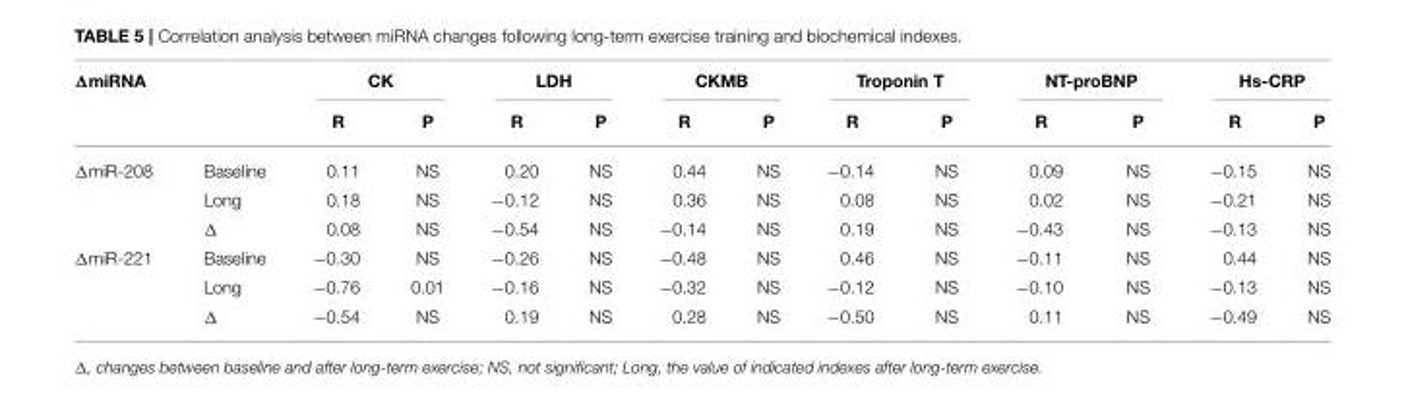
<table><thead><tr><td rowspan="2">ΔmiRNA</td><td rowspan="2"></td><td colspan="2">CK</td><td colspan="2">LDH</td><td colspan="2">CKMB</td><td colspan="2">Troponin T</td><td colspan="2">NT-proBNP</td><td colspan="2">Hs-CRP</td></tr><tr><td>R</td><td>P</td><td>R</td><td>P</td><td>R</td><td>P</td><td>R</td><td>P</td><td>R</td><td>P</td><td>R</td><td>P</td></tr></thead><tbody><tr><td rowspan="3">ΔmiR-208</td><td>Baseline</td><td>0.11</td><td>NS</td><td>0.20</td><td>NS</td><td>0.44</td><td>NS</td><td>−0.14</td><td>NS</td><td>0.09</td><td>NS</td><td>−0.15</td><td>NS</td></tr><tr><td>Long</td><td>0.18</td><td>NS</td><td>−0.12</td><td>NS</td><td>0.36</td><td>NS</td><td>0.08</td><td>NS</td><td>0.02</td><td>NS</td><td>−0.21</td><td>NS</td></tr><tr><td>Δ</td><td>0.08</td><td>NS</td><td>−0.54</td><td>NS</td><td>−0.14</td><td>NS</td><td>0.19</td><td>NS</td><td>−0.43</td><td>NS</td><td>−0.13</td><td>NS</td></tr><tr><td rowspan="3">ΔmiR-221</td><td>Baseline</td><td>−0.30</td><td>NS</td><td>−0.26</td><td>NS</td><td>−0.48</td><td>NS</td><td>0.46</td><td>NS</td><td>−0.11</td><td>NS</td><td>0.44</td><td>NS</td></tr><tr><td>Long</td><td>−0.76</td><td>0.01</td><td>−0.16</td><td>NS</td><td>−0.32</td><td>NS</td><td>−0.12</td><td>NS</td><td>−0.10</td><td>NS</td><td>−0.13</td><td>NS</td></tr><tr><td>Δ</td><td>−0.54</td><td>NS</td><td>0.19</td><td>NS</td><td>0.28</td><td>NS</td><td>−0.50</td><td>NS</td><td>0.11</td><td>NS</td><td>−0.49</td><td>NS</td></tr></tbody></table>